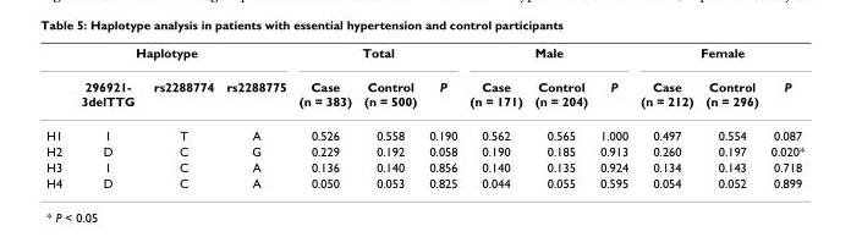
<table><thead><tr><td colspan="4">Haplotype</td><td colspan="3">Total</td><td colspan="3">Male</td><td colspan="3">Female</td></tr><tr><td></td><td>296921- 3delTTG</td><td>rs2288774</td><td>rs2288775</td><td>Case (n = 383)</td><td>Control (n = 500)</td><td>P</td><td>Case (n = 171)</td><td>Control (n = 204)</td><td>P</td><td>Case (n = 212)</td><td>Control (n = 296)</td><td>P</td></tr></thead><tbody><tr><td>H1</td><td>I</td><td>T</td><td>A</td><td>0.526</td><td>0.558</td><td>0.190</td><td>0.562</td><td>0.565</td><td>1.000</td><td>0.497</td><td>0.554</td><td>0.087</td></tr><tr><td>H2</td><td>D</td><td>C</td><td>G</td><td>0.229</td><td>0.192</td><td>0.058</td><td>0.190</td><td>0.185</td><td>0.913</td><td>0.260</td><td>0.197</td><td>0.020*</td></tr><tr><td>H3</td><td>I</td><td>C</td><td>A</td><td>0.136</td><td>0.140</td><td>0.856</td><td>0.140</td><td>0.135</td><td>0.924</td><td>0.134</td><td>0.143</td><td>0.718</td></tr><tr><td>H4</td><td>D</td><td>C</td><td>A</td><td>0.050</td><td>0.053</td><td>0.825</td><td>0.044</td><td>0.055</td><td>0.595</td><td>0.054</td><td>0.052</td><td>0.899</td></tr></tbody></table>